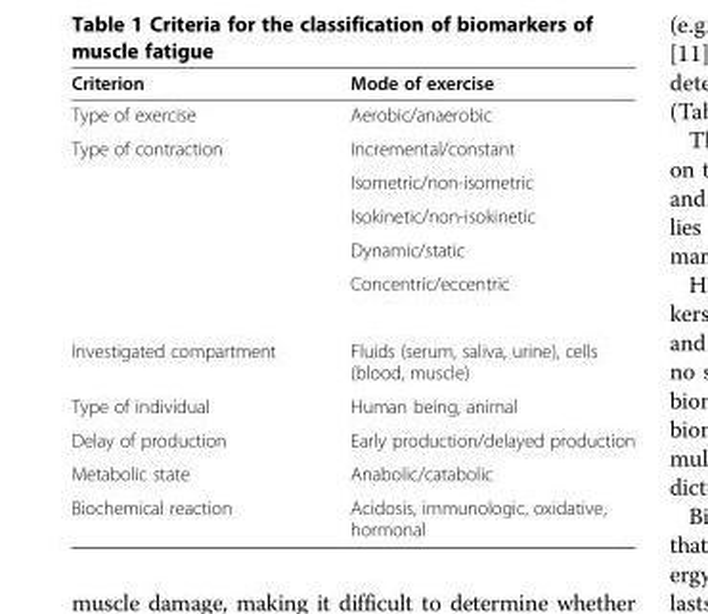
<table><thead><tr><td>Criterion</td><td>Mode of exercise</td></tr></thead><tbody><tr><td>Type of exercise</td><td>Aerobic/anaerobic</td></tr><tr><td rowspan="5">Type of contraction</td><td>Incremental/constant</td></tr><tr><td>Isometric/non-isometric</td></tr><tr><td>Isokinetic/non-isokinetic</td></tr><tr><td>Dynamic/static</td></tr><tr><td>Concentric/eccentric</td></tr><tr><td>Investigated compartment</td><td>Fluids (serum, saliva, urine), cells (blood, muscle)</td></tr><tr><td>Type of individual</td><td>Human being, animal</td></tr><tr><td>Delay of production</td><td>Early production/delayed production</td></tr><tr><td>Metabolic state</td><td>Anabolic/catabolic</td></tr><tr><td>Biochemical reaction</td><td>Acidosis, immunologic, oxidative, hormonal</td></tr></tbody></table>